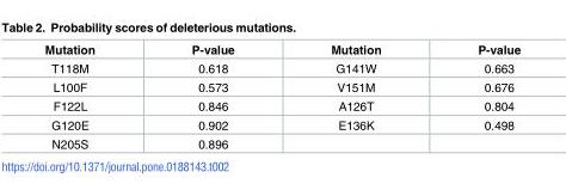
<table><thead><tr><td>Mutation</td><td>P-value</td><td>Mutation</td><td>P-value</td></tr></thead><tbody><tr><td>T118M</td><td>0.618</td><td>G141W</td><td>0.663</td></tr><tr><td>L100F</td><td>0.573</td><td>V151M</td><td>0.676</td></tr><tr><td>F122L</td><td>0.846</td><td>A126T</td><td>0.804</td></tr><tr><td>G120E</td><td>0.902</td><td>E136K</td><td>0.498</td></tr><tr><td>N205S</td><td>0.896</td><td></td><td></td></tr></tbody></table>